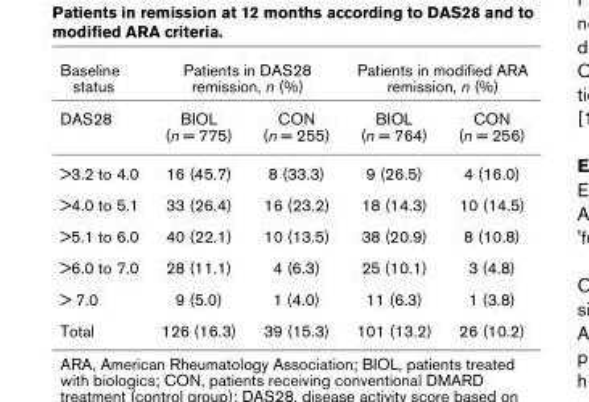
<table><thead><tr><td rowspan="2">Baseline status DAS28</td><td colspan="2">Patients in DAS28 remission, n (%)</td><td colspan="2">Patients in modified ARA remission, n (%)</td></tr><tr><td>BIOL (n = 775)</td><td>CON (n = 255)</td><td>BIOL (n = 764)</td><td>CON (n = 256)</td></tr></thead><tbody><tr><td>&gt;3.2 to 4.0</td><td>16 (45.7)</td><td>8 (33.3)</td><td>9 (26.5)</td><td>4 (16.0)</td></tr><tr><td>&gt;4.0 to 5.1</td><td>33 (26.4)</td><td>16 (23.2)</td><td>18 (14.3)</td><td>10 (14.5)</td></tr><tr><td>&gt;5.1 to 6.0</td><td>40 (22.1)</td><td>10 (13.5)</td><td>38 (20.9)</td><td>8 (10.8)</td></tr><tr><td>&gt;6.0 to 7.0</td><td>28 (11.1)</td><td>4 (6.3)</td><td>25 (10.1)</td><td>3 (4.8)</td></tr><tr><td>&gt; 7.0</td><td>9 (5.0)</td><td>1 (4.0)</td><td>11 (6.3)</td><td>1 (3.8)</td></tr><tr><td>Total</td><td>126 (16.3)</td><td>39 (15.3)</td><td>101 (13.2)</td><td>26 (10.2)</td></tr></tbody></table>